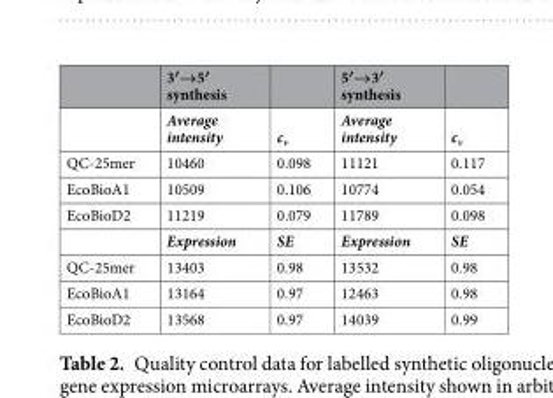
<table><thead><tr><td></td><td>3′→5′ synthesis</td><td></td><td>5′→3′ synthesis</td><td></td></tr></thead><tbody><tr><td></td><td>Average intensity</td><td>c<sub>v</sub></td><td>Average intensity</td><td>c<sub>v</sub></td></tr><tr><td>QC-25mer</td><td>10460</td><td>0.098</td><td>11121</td><td>0.117</td></tr><tr><td>EcoBioA1</td><td>10509</td><td>0.106</td><td>10774</td><td>0.054</td></tr><tr><td rowspan="2">EcoBioD2</td><td>11219</td><td>0.079</td><td>11789</td><td>0.098</td></tr><tr><td>Expression</td><td>SE</td><td>Expression</td><td>SE</td></tr><tr><td>QC-25mer</td><td>13403</td><td>0.98</td><td>13532</td><td>0.98</td></tr><tr><td>EcoBioA1</td><td>13164</td><td>0.97</td><td>12463</td><td>0.98</td></tr><tr><td>EcoBioD2</td><td>13568</td><td>0.97</td><td>14039</td><td>0.99</td></tr></tbody></table>